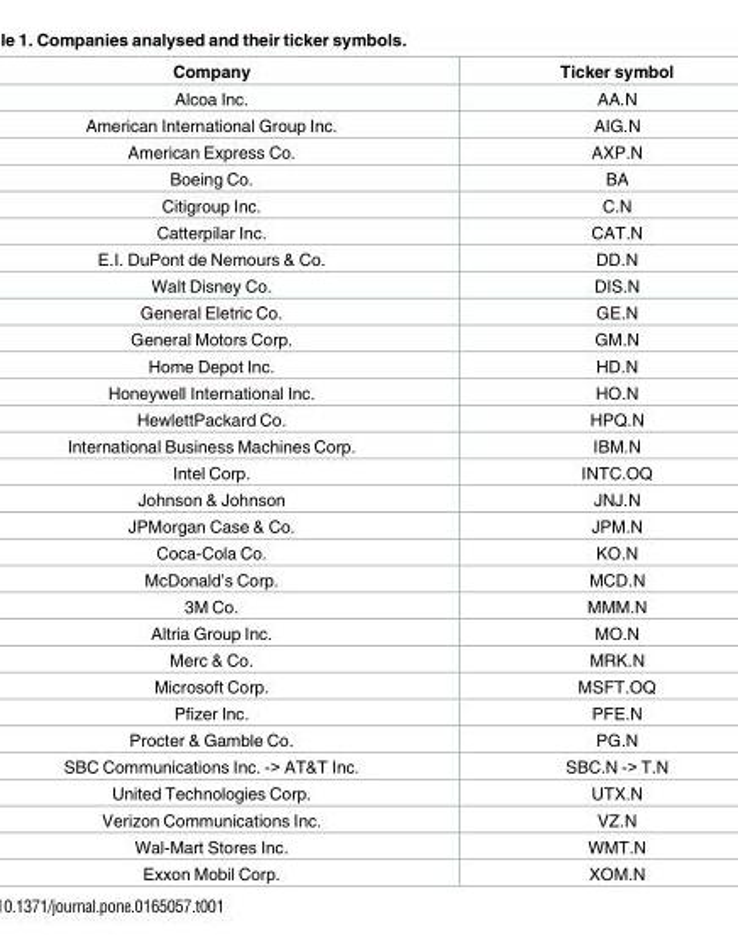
<table><thead><tr><td>Company</td><td>Ticker symbol</td></tr></thead><tbody><tr><td>Alcoa Inc.</td><td>AA.N</td></tr><tr><td>American International Group Inc.</td><td>AIG.N</td></tr><tr><td>American Express Co.</td><td>AXP.N</td></tr><tr><td>Boeing Co.</td><td>BA</td></tr><tr><td>Citigroup Inc.</td><td>C.N</td></tr><tr><td>Catterpilar Inc.</td><td>CAT.N</td></tr><tr><td>E.I. DuPont de Nemours &amp; Co.</td><td>DD.N</td></tr><tr><td>Walt Disney Co.</td><td>DIS.N</td></tr><tr><td>General Eletric Co.</td><td>GE.N</td></tr><tr><td>General Motors Corp.</td><td>GM.N</td></tr><tr><td>Home Depot Inc.</td><td>HD.N</td></tr><tr><td>Honeywell International Inc.</td><td>HO.N</td></tr><tr><td>HewlettPackard Co.</td><td>HPQ.N</td></tr><tr><td>International Business Machines Corp.</td><td>IBM.N</td></tr><tr><td>Intel Corp.</td><td>INTC.OQ</td></tr><tr><td>Johnson &amp; Johnson</td><td>JNJ.N</td></tr><tr><td>JPMorgan Case &amp; Co.</td><td>JPM.N</td></tr><tr><td>Coca-Cola Co.</td><td>KO.N</td></tr><tr><td>McDonald’s Corp.</td><td>MCD.N</td></tr><tr><td>3M Co.</td><td>MMM.N</td></tr><tr><td>Altria Group Inc.</td><td>MO.N</td></tr><tr><td>Merc &amp; Co.</td><td>MRK.N</td></tr><tr><td>Microsoft Corp.</td><td>MSFT.OQ</td></tr><tr><td>Pfizer Inc.</td><td>PFE.N</td></tr><tr><td>Procter &amp; Gamble Co.</td><td>PG.N</td></tr><tr><td>SBC Communications Inc. -&gt; AT&amp;T Inc.</td><td>SBC.N -&gt; T.N</td></tr><tr><td>United Technologies Corp.</td><td>UTX.N</td></tr><tr><td>Verizon Communications Inc.</td><td>VZ.N</td></tr><tr><td>Wal-Mart Stores Inc.</td><td>WMT.N</td></tr><tr><td>Exxon Mobil Corp.</td><td>XOM.N</td></tr></tbody></table>